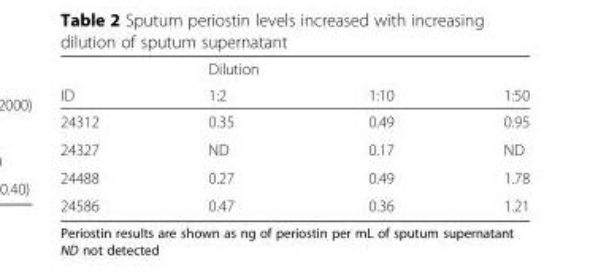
<table><thead><tr><td rowspan="2">ID</td><td rowspan="2">Dilution 1:2</td><td rowspan="2">1:10</td><td rowspan="2">1:50</td></tr><tr></tr></thead><tbody><tr><td>24312</td><td>0.35</td><td>0.49</td><td>0.95</td></tr><tr><td>24327</td><td>ND</td><td>0.17</td><td>ND</td></tr><tr><td>24488</td><td>0.27</td><td>0.49</td><td>1.78</td></tr><tr><td>24586</td><td>0.47</td><td>0.36</td><td>1.21</td></tr></tbody></table>